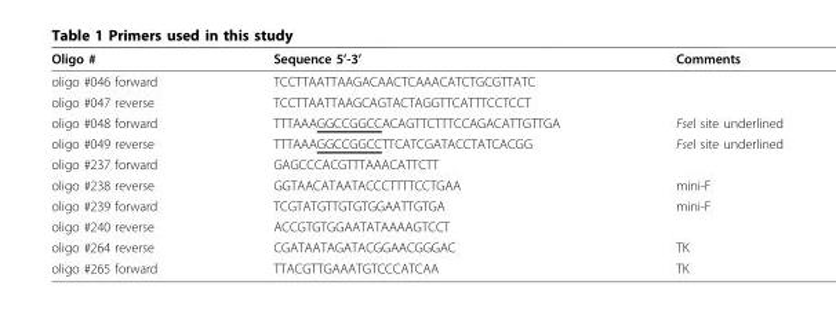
<table><thead><tr><td>Oligo #</td><td>Sequence 5’-3’</td><td>Comments</td></tr></thead><tbody><tr><td>oligo #046 forward</td><td>TCCTTAATTAAGACAACTCAAACATCTGCGTTATC</td><td></td></tr><tr><td>oligo #047 reverse</td><td>TCCTTAATTAAGCAGTACTAGGTTCATTTCCTCCT</td><td></td></tr><tr><td>oligo #048 forward</td><td>TTTAAAGGCCGGCCACAGTTCTTTCCAGACATTGTTGA</td><td>FseI site underlined</td></tr><tr><td>oligo #049 reverse</td><td>TTTAAAGGCCGGCCTTCATCGATACCTATCACGG</td><td>FseI site underlined</td></tr><tr><td>oligo #237 forward</td><td>GAGCCCACGTTTAAACATTCTT</td><td></td></tr><tr><td>oligo #238 reverse</td><td>GGTAACATAATACCCTTTTCCTGAA</td><td>mini-F</td></tr><tr><td>oligo #239 forward</td><td>TCGTATGTTGTGTGGAATTGTGA</td><td>mini-F</td></tr><tr><td>oligo #240 reverse</td><td>ACCGTGTGGAATATAAAAGTCCT</td><td></td></tr><tr><td>oligo #264 reverse</td><td>CGATAATAGATACGGAACGGGAC</td><td>TK</td></tr><tr><td>oligo #265 forward</td><td>TTACGTTGAAATGTCCCATCAA</td><td>TK</td></tr></tbody></table>